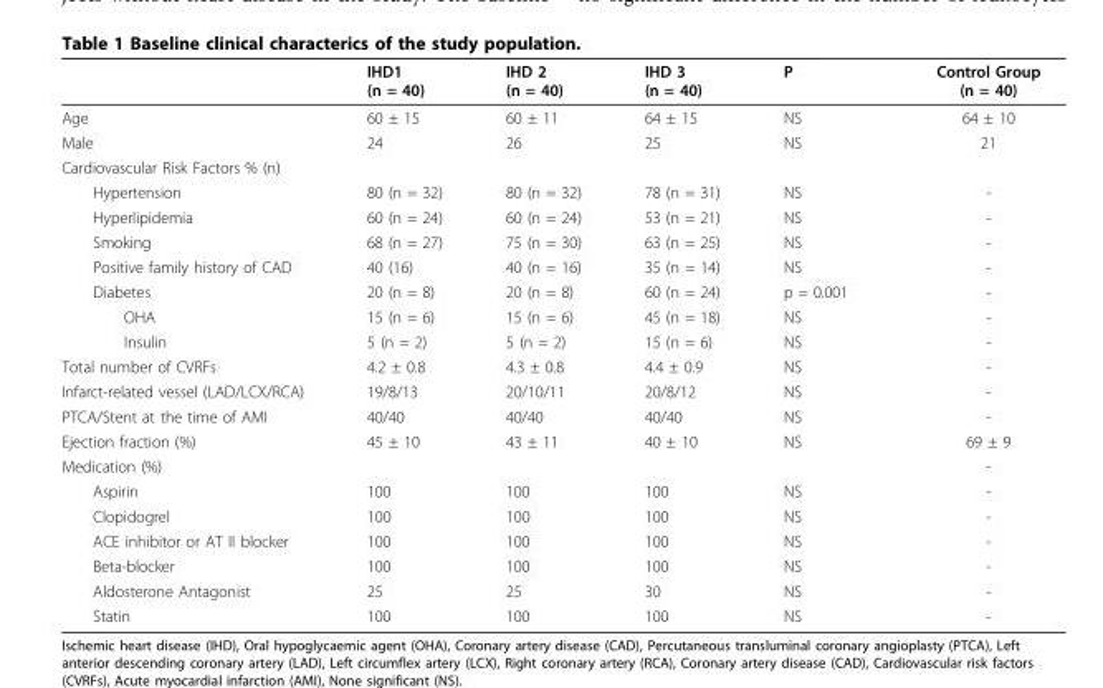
<table><thead><tr><td></td><td>IHD1 (n = 40)</td><td>IHD 2 (n = 40)</td><td>IHD 3 (n = 40)</td><td>P</td><td>Control Group (n = 40)</td></tr></thead><tbody><tr><td>Age</td><td>60 ± 15</td><td>60 ± 11</td><td>64 ± 15</td><td>NS</td><td>64 ± 10</td></tr><tr><td>Male</td><td>24</td><td>26</td><td>25</td><td>NS</td><td>21</td></tr><tr><td colspan="6">Cardiovascular Risk Factors % (n)</td></tr><tr><td>Hypertension</td><td>80 (n = 32)</td><td>80 (n = 32)</td><td>78 (n = 31)</td><td>NS</td><td>-</td></tr><tr><td>Hyperlipidemia</td><td>60 (n = 24)</td><td>60 (n = 24)</td><td>53 (n = 21)</td><td>NS</td><td>-</td></tr><tr><td>Smoking</td><td>68 (n = 27)</td><td>75 (n = 30)</td><td>63 (n = 25)</td><td>NS</td><td>-</td></tr><tr><td>Positive family history of CAD</td><td>40 (16)</td><td>40 (n = 16)</td><td>35 (n = 14)</td><td>NS</td><td>-</td></tr><tr><td>Diabetes</td><td>20 (n = 8)</td><td>20 (n = 8)</td><td>60 (n = 24)</td><td>p = 0.001</td><td>-</td></tr><tr><td>OHA</td><td>15 (n = 6)</td><td>15 (n = 6)</td><td>45 (n = 18)</td><td>NS</td><td>-</td></tr><tr><td>Insulin</td><td>5 (n = 2)</td><td>5 (n = 2)</td><td>15 (n = 6)</td><td>NS</td><td>-</td></tr><tr><td>Total number of CVRFs</td><td>4.2 ± 0.8</td><td>4.3 ± 0.8</td><td>4.4 ± 0.9</td><td>NS</td><td>-</td></tr><tr><td>Infarct-related vessel (LAD/LCX/RCA)</td><td>19/8/13</td><td>20/10/11</td><td>20/8/12</td><td>NS</td><td>-</td></tr><tr><td>PTCA/Stent at the time of AMI</td><td>40/40</td><td>40/40</td><td>40/40</td><td>NS</td><td>-</td></tr><tr><td>Ejection fraction (%)</td><td>45 ± 10</td><td>43 ± 11</td><td>40 ± 10</td><td>NS</td><td>69 ± 9</td></tr><tr><td>Medication (%)</td><td></td><td></td><td></td><td></td><td>-</td></tr><tr><td>Aspirin</td><td>100</td><td>100</td><td>100</td><td>NS</td><td>-</td></tr><tr><td>Clopidogrel</td><td>100</td><td>100</td><td>100</td><td>NS</td><td>-</td></tr><tr><td>ACE inhibitor or AT II blocker</td><td>100</td><td>100</td><td>100</td><td>NS</td><td>-</td></tr><tr><td>Beta-blocker</td><td>100</td><td>100</td><td>100</td><td>NS</td><td>-</td></tr><tr><td>Aldosterone Antagonist</td><td>25</td><td>25</td><td>30</td><td>NS</td><td>-</td></tr><tr><td>Statin</td><td>100</td><td>100</td><td>100</td><td>NS</td><td>-</td></tr></tbody></table>